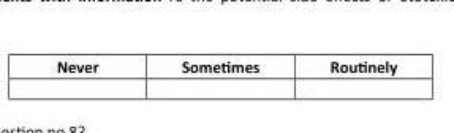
<table><thead><tr><td>Never</td><td>Sometimes</td><td>Routinely</td></tr></thead><tbody></tbody></table>